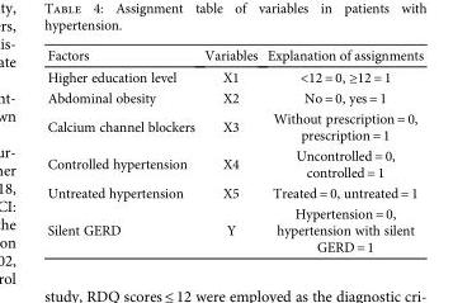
<table><thead><tr><td>Factors</td><td>Variables</td><td>Explanation of assignments</td></tr></thead><tbody><tr><td>Higher education level</td><td>X1</td><td>&lt;12 = 0, ≥12 = 1</td></tr><tr><td>Abdominal obesity</td><td>X2</td><td>No = 0, yes = 1</td></tr><tr><td>Calcium channel blockers</td><td>X3</td><td>Without prescription = 0, prescription = 1</td></tr><tr><td>Controlled hypertension</td><td>X4</td><td>Uncontrolled = 0, controlled = 1</td></tr><tr><td>Untreated hypertension</td><td>X5</td><td>Treated = 0, untreated = 1</td></tr><tr><td>Silent GERD</td><td>Y</td><td>Hypertension = 0, hypertension with silent GERD = 1</td></tr></tbody></table>